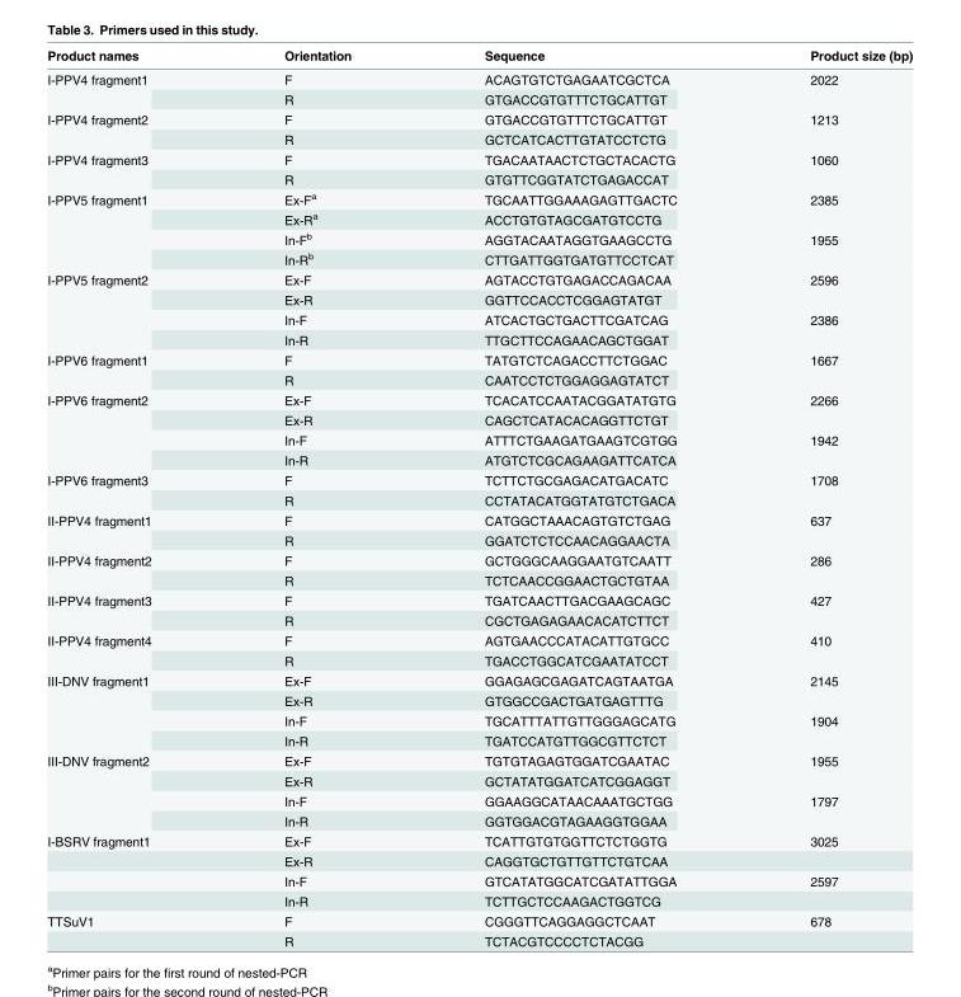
<table><thead><tr><td>Product names</td><td>Orientation</td><td>Sequence</td><td>Product size (bp)</td></tr></thead><tbody><tr><td rowspan="2">I-PPV4 fragment1</td><td>F</td><td>ACAGTGTCTGAGAATCGCTCA</td><td rowspan="2">2022</td></tr><tr><td>R</td><td>GTGACCGTGTTTCTGCATTGT</td></tr><tr><td rowspan="2">I-PPV4 fragment2</td><td>F</td><td>GTGACCGTGTTTCTGCATTGT</td><td rowspan="2">1213</td></tr><tr><td>R</td><td>GCTCATCACTTGTATCCTCTG</td></tr><tr><td rowspan="2">I-PPV4 fragment3</td><td>F</td><td>TGACAATAACTCTGCTACACTG</td><td rowspan="2">1060</td></tr><tr><td>R</td><td>GTGTTCGGTATCTGAGACCAT</td></tr><tr><td rowspan="4">I-PPV5 fragment1</td><td>Ex-F<sup>a</sup></td><td>TGCAATTGGAAAGAGTTGACTC</td><td rowspan="2">2385</td></tr><tr><td>Ex-R<sup>a</sup></td><td>ACCTGTGTAGCGATGTCCTG</td></tr><tr><td>In-F<sup>b</sup></td><td>AGGTACAATAGGTGAAGCCTG</td><td rowspan="2">1955</td></tr><tr><td>In-R<sup>b</sup></td><td>CTTGATTGGTGATGTTCCTCAT</td></tr><tr><td rowspan="4">I-PPV5 fragment2</td><td>Ex-F</td><td>AGTACCTGTGAGACCAGACAA</td><td rowspan="2">2596</td></tr><tr><td>Ex-R</td><td>GGTTCCACCTCGGAGTATGT</td></tr><tr><td>In-F</td><td>ATCACTGCTGACTTCGATCAG</td><td rowspan="2">2386</td></tr><tr><td>In-R</td><td>TTGCTTCCAGAACAGCTGGAT</td></tr><tr><td rowspan="2">I-PPV6 fragment1</td><td>F</td><td>TATGTCTCAGACCTTCTGGAC</td><td rowspan="2">1667</td></tr><tr><td>R</td><td>CAATCCTCTGGAGGAGTATCT</td></tr><tr><td rowspan="4">I-PPV6 fragment2</td><td>Ex-F</td><td>TCACATCCAATACGGATATGTG</td><td rowspan="2">2266</td></tr><tr><td>Ex-R</td><td>CAGCTCATACACAGGTTCTGT</td></tr><tr><td>In-F</td><td>ATTTCTGAAGATGAAGTCGTGG</td><td rowspan="2">1942</td></tr><tr><td>In-R</td><td>ATGTCTCGCAGAAGATTCATCA</td></tr><tr><td rowspan="2">I-PPV6 fragment3</td><td>F</td><td>TCTTCTGCGAGACATGACATC</td><td rowspan="2">1708</td></tr><tr><td>R</td><td>CCTATACATGGTATGTCTGACA</td></tr><tr><td rowspan="2">II-PPV4 fragment1</td><td>F</td><td>CATGGCTAAACAGTGTCTGAG</td><td rowspan="2">637</td></tr><tr><td>R</td><td>GGATCTCTCCAACAGGAACTA</td></tr><tr><td rowspan="2">II-PPV4 fragment2</td><td>F</td><td>GCTGGGCAAGGAATGTCAATT</td><td rowspan="2">286</td></tr><tr><td>R</td><td>TCTCAACCGGAACTGCTGTAA</td></tr><tr><td rowspan="2">II-PPV4 fragment3</td><td>F</td><td>TGATCAACTTGACGAAGCAGC</td><td rowspan="2">427</td></tr><tr><td>R</td><td>CGCTGAGAGAACACATCTTCT</td></tr><tr><td rowspan="2">II-PPV4 fragment4</td><td>F</td><td>AGTGAACCCATACATTGTGCC</td><td rowspan="2">410</td></tr><tr><td>R</td><td>TGACCTGGCATCGAATATCCT</td></tr><tr><td rowspan="4">III-DNV fragment1</td><td>Ex-F</td><td>GGAGAGCGAGATCAGTAATGA</td><td rowspan="2">2145</td></tr><tr><td>Ex-R</td><td>GTGGCCGACTGATGAGTTTG</td></tr><tr><td>In-F</td><td>TGCATTTATTGTTGGGAGCATG</td><td rowspan="2">1904</td></tr><tr><td>In-R</td><td>TGATCCATGTTGGCGTTCTCT</td></tr><tr><td rowspan="4">III-DNV fragment2</td><td>Ex-F</td><td>TGTGTAGAGTGGATCGAATAC</td><td rowspan="2">1955</td></tr><tr><td>Ex-R</td><td>GCTATATGGATCATCGGAGGT</td></tr><tr><td>In-F</td><td>GGAAGGCATAACAAATGCTGG</td><td rowspan="2">1797</td></tr><tr><td>In-R</td><td>GGTGGACGTAGAAGGTGGAA</td></tr><tr><td rowspan="4">I-BSRV fragment1</td><td>Ex-F</td><td>TCATTGTGTGGTTCTCTGGTG</td><td>3025</td></tr><tr><td>Ex-R</td><td>CAGGTGCTGTTGTTCTGTCAA</td><td></td></tr><tr><td>In-F</td><td>GTCATATGGCATCGATATTGGA</td><td>2597</td></tr><tr><td>In-R</td><td>TCTTGCTCCAAGACTGGTCG</td><td></td></tr><tr><td rowspan="2">TTSuV1</td><td>F</td><td>CGGGTTCAGGAGGCTCAAT</td><td>678</td></tr><tr><td>R</td><td>TCTACGTCCCCTCTACGG</td><td></td></tr></tbody></table>